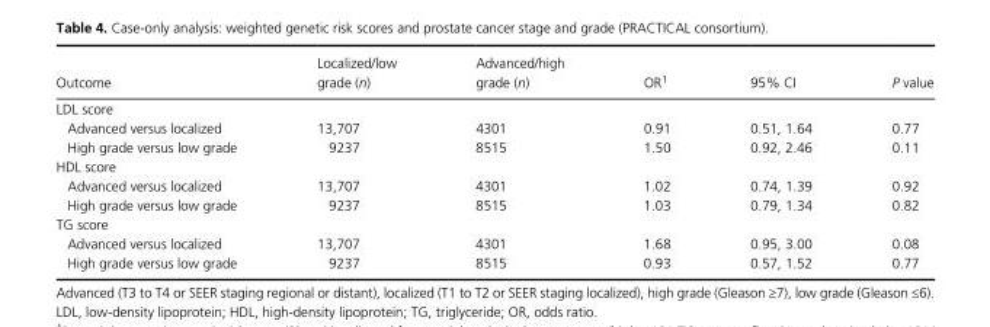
<table><thead><tr><td>Outcome</td><td>Localized/low grade (n)</td><td>Advanced/high grade (n)</td><td>OR1</td><td>95% CI</td><td>P value</td></tr></thead><tbody><tr><td colspan="6">LDL score</td></tr><tr><td>Advanced versus localized</td><td>13,707</td><td>4301</td><td>0.91</td><td>0.51, 1.64</td><td>0.77</td></tr><tr><td>High grade versus low grade</td><td>9237</td><td>8515</td><td>1.50</td><td>0.92, 2.46</td><td>0.11</td></tr><tr><td colspan="6">HDL score</td></tr><tr><td>Advanced versus localized</td><td>13,707</td><td>4301</td><td>1.02</td><td>0.74, 1.39</td><td>0.92</td></tr><tr><td>High grade versus low grade</td><td>9237</td><td>8515</td><td>1.03</td><td>0.79, 1.34</td><td>0.82</td></tr><tr><td colspan="6">TG score</td></tr><tr><td>Advanced versus localized</td><td>13,707</td><td>4301</td><td>1.68</td><td>0.95, 3.00</td><td>0.08</td></tr><tr><td>High grade versus low grade</td><td>9237</td><td>8515</td><td>0.93</td><td>0.57, 1.52</td><td>0.77</td></tr></tbody></table>